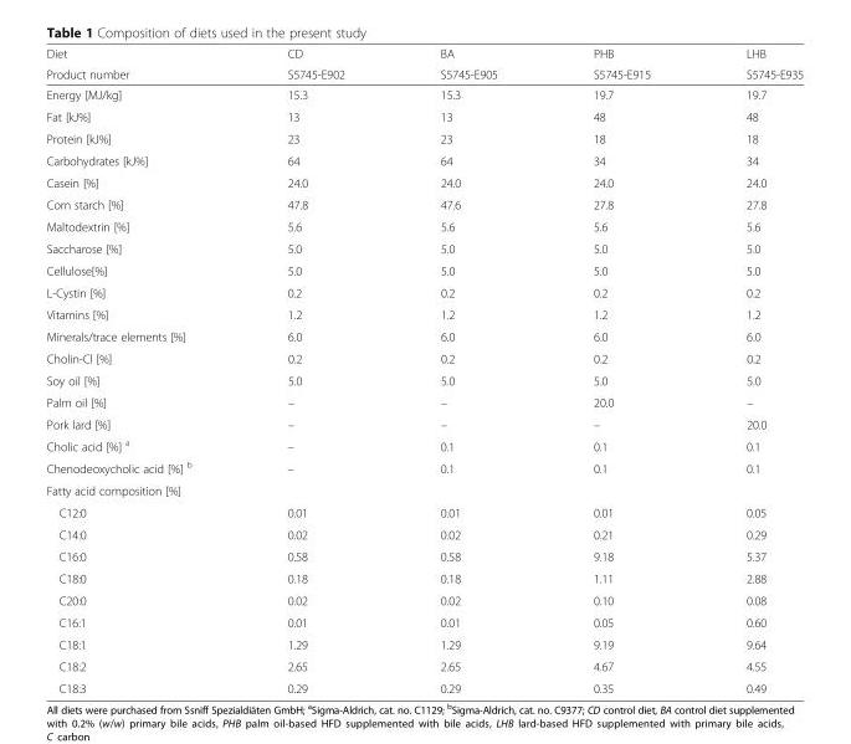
<table><thead><tr><td rowspan="2">Diet Product number</td><td rowspan="2">CD S5745-E902</td><td rowspan="2">BA S5745-E905</td><td rowspan="2">PHB S5745-E915</td><td rowspan="2">LHB S5745-E935</td></tr><tr></tr></thead><tbody><tr><td>Energy [MJ/kg]</td><td>15.3</td><td>15.3</td><td>19.7</td><td>19.7</td></tr><tr><td>Fat [kJ%]</td><td>13</td><td>13</td><td>48</td><td>48</td></tr><tr><td>Protein [kJ%]</td><td>23</td><td>23</td><td>18</td><td>18</td></tr><tr><td>Carbohydrates [kJ%]</td><td>64</td><td>64</td><td>34</td><td>34</td></tr><tr><td>Casein [%]</td><td>24.0</td><td>24.0</td><td>24.0</td><td>24.0</td></tr><tr><td>Corn starch [%]</td><td>47.8</td><td>47.6</td><td>27.8</td><td>27.8</td></tr><tr><td>Maltodextrin [%]</td><td>5.6</td><td>5.6</td><td>5.6</td><td>5.6</td></tr><tr><td>Saccharose [%]</td><td>5.0</td><td>5.0</td><td>5.0</td><td>5.0</td></tr><tr><td>Cellulose[%]</td><td>5.0</td><td>5.0</td><td>5.0</td><td>5.0</td></tr><tr><td>L-Cystin [%]</td><td>0.2</td><td>0.2</td><td>0.2</td><td>0.2</td></tr><tr><td>Vitamins [%]</td><td>1.2</td><td>1.2</td><td>1.2</td><td>1.2</td></tr><tr><td>Minerals/trace elements [%]</td><td>6.0</td><td>6.0</td><td>6.0</td><td>6.0</td></tr><tr><td>Cholin-Cl [%]</td><td>0.2</td><td>0.2</td><td>0.2</td><td>0.2</td></tr><tr><td>Soy oil [%]</td><td>5.0</td><td>5.0</td><td>5.0</td><td>5.0</td></tr><tr><td>Palm oil [%]</td><td>–</td><td>–</td><td>20.0</td><td>–</td></tr><tr><td>Pork lard [%]</td><td>–</td><td>–</td><td>–</td><td>20.0</td></tr><tr><td>Cholic acid [%] <sup>a</sup></td><td>–</td><td>0.1</td><td>0.1</td><td>0.1</td></tr><tr><td>Chenodeoxycholic acid [%] <sup>b</sup></td><td>–</td><td>0.1</td><td>0.1</td><td>0.1</td></tr><tr><td colspan="5">Fatty acid composition [%]</td></tr><tr><td>C12:0</td><td>0.01</td><td>0.01</td><td>0.01</td><td>0.05</td></tr><tr><td>C14:0</td><td>0.02</td><td>0.02</td><td>0.21</td><td>0.29</td></tr><tr><td>C16:0</td><td>0.58</td><td>0.58</td><td>9.18</td><td>5.37</td></tr><tr><td>C18:0</td><td>0.18</td><td>0.18</td><td>1.11</td><td>2.88</td></tr><tr><td>C20:0</td><td>0.02</td><td>0.02</td><td>0.10</td><td>0.08</td></tr><tr><td>C16:1</td><td>0.01</td><td>0.01</td><td>0.05</td><td>0.60</td></tr><tr><td>C18:1</td><td>1.29</td><td>1.29</td><td>9.19</td><td>9.64</td></tr><tr><td>C18:2</td><td>2.65</td><td>2.65</td><td>4.67</td><td>4.55</td></tr><tr><td>C18:3</td><td>0.29</td><td>0.29</td><td>0.35</td><td>0.49</td></tr></tbody></table>